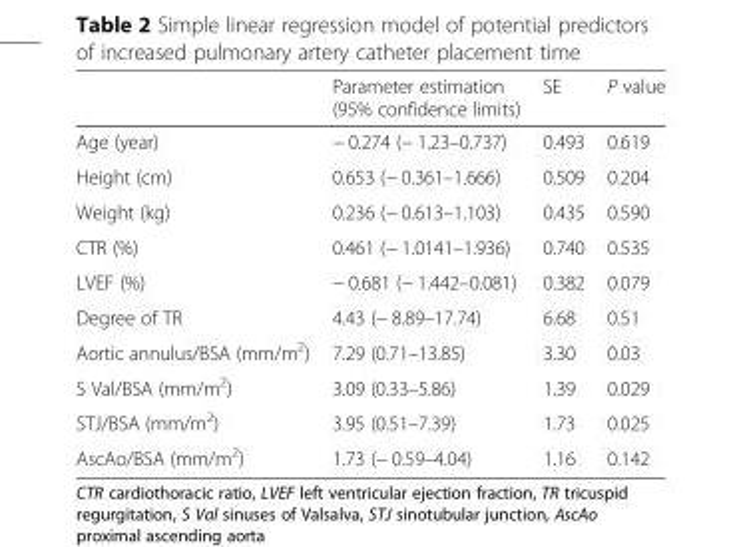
<table><thead><tr><td></td><td>Parameter estimation (95% confidence limits)</td><td>SE</td><td>P value</td></tr></thead><tbody><tr><td>Age (year)</td><td>− 0.274 (− 1.23–0.737)</td><td>0.493</td><td>0.619</td></tr><tr><td>Height (cm)</td><td>0.653 (− 0.361–1.666)</td><td>0.509</td><td>0.204</td></tr><tr><td>Weight (kg)</td><td>0.236 (− 0.613–1.103)</td><td>0.435</td><td>0.590</td></tr><tr><td>CTR (%)</td><td>0.461 (− 1.0141–1.936)</td><td>0.740</td><td>0.535</td></tr><tr><td>LVEF (%)</td><td>− 0.681 (− 1.442–0.081)</td><td>0.382</td><td>0.079</td></tr><tr><td>Degree of TR</td><td>4.43 (− 8.89–17.74)</td><td>6.68</td><td>0.51</td></tr><tr><td>Aortic annulus/BSA (mm/m<sup>2</sup>)</td><td>7.29 (0.71–13.85)</td><td>3.30</td><td>0.03</td></tr><tr><td>S Val/BSA (mm/m<sup>2</sup>)</td><td>3.09 (0.33–5.86)</td><td>1.39</td><td>0.029</td></tr><tr><td>STJ/BSA (mm/m<sup>2</sup>)</td><td>3.95 (0.51–7.39)</td><td>1.73</td><td>0.025</td></tr><tr><td>AscAo/BSA (mm/m<sup>2</sup>)</td><td>1.73 (− 0.59–4.04)</td><td>1.16</td><td>0.142</td></tr></tbody></table>